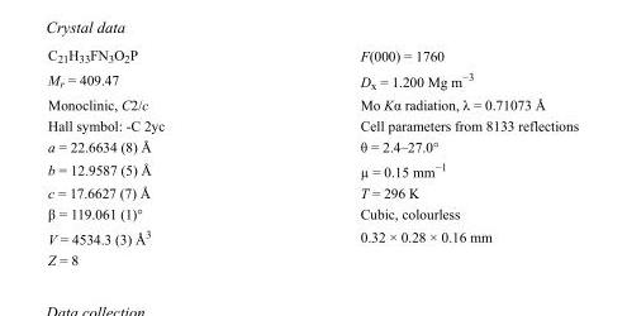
<table><tbody><tr><td>C<sub>21</sub>H<sub>33</sub>FN<sub>3</sub>O<sub>2</sub>P</td><td>F(000) = 1760</td></tr><tr><td>M<sub>r</sub> = 409.47</td><td>D<sub>x</sub> = 1.200 Mg m<sup>−3</sup></td></tr><tr><td>Monoclinic, C2/c</td><td>Mo Kα radiation, λ = 0.71073 Å</td></tr><tr><td>Hall symbol: -C 2yc</td><td>Cell parameters from 8133 reflections</td></tr><tr><td>a = 22.6634 (8) Å</td><td>θ = 2.4–27.0°</td></tr><tr><td>b = 12.9587 (5) Å</td><td>µ = 0.15 mm<sup>−1</sup></td></tr><tr><td>c = 17.6627 (7) Å</td><td>T = 296 K</td></tr><tr><td>β = 119.061 (1)°</td><td>Cubic, colourless</td></tr><tr><td>V = 4534.3 (3) Å<sup>3</sup></td><td>0.32 × 0.28 × 0.16 mm</td></tr><tr><td>Z = 8</td><td></td></tr></tbody></table>